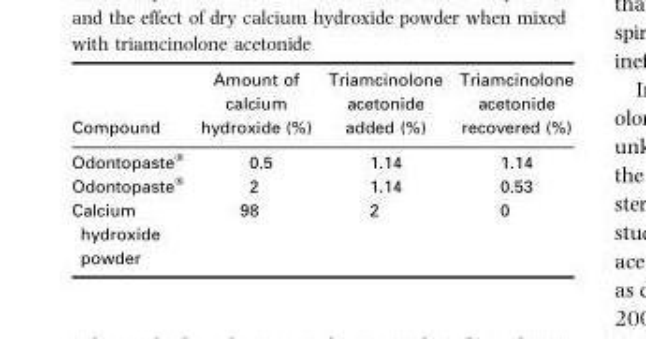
<table><thead><tr><td>Compound</td><td>Amount of calcium hydroxide (%)</td><td>Triamcinolone acetonide added (%)</td><td>Triamcinolone acetonide recovered (%)</td></tr></thead><tbody><tr><td>Odontopaste®</td><td>0.5</td><td>1.14</td><td>1.14</td></tr><tr><td>Odontopaste®</td><td>2</td><td>1.14</td><td>0.53</td></tr><tr><td>Calcium hydroxide powder</td><td>98</td><td>2</td><td>0</td></tr></tbody></table>